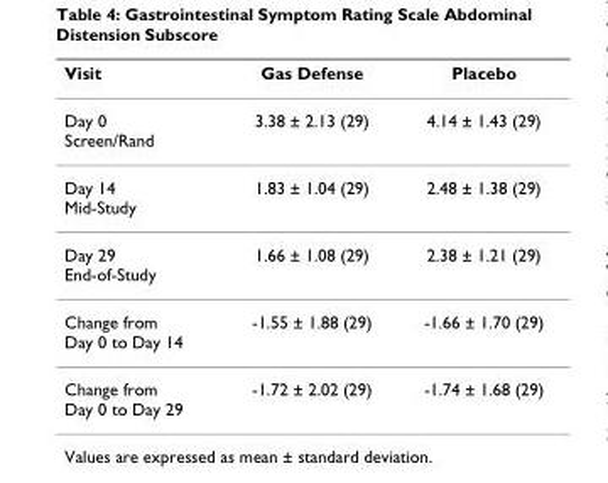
<table><thead><tr><td>Visit</td><td>Gas Defense</td><td>Placebo</td></tr></thead><tbody><tr><td>Day 0 Screen/Rand</td><td>3.38 ± 2.13 (29)</td><td>4.14 ± 1.43 (29)</td></tr><tr><td>Day 14 Mid-Study</td><td>1.83 ± 1.04 (29)</td><td>2.48 ± 1.38 (29)</td></tr><tr><td>Day 29 End-of-Study</td><td>1.66 ± 1.08 (29)</td><td>2.38 ± 1.21 (29)</td></tr><tr><td>Change from Day 0 to Day 14</td><td>-1.55 ± 1.88 (29)</td><td>-1.66 ± 1.70 (29)</td></tr><tr><td>Change from Day 0 to Day 29</td><td>-1.72 ± 2.02 (29)</td><td>-1.74 ± 1.68 (29)</td></tr></tbody></table>